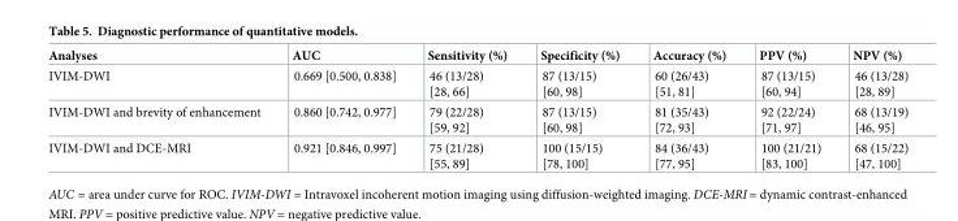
<table><thead><tr><td>Analyses</td><td>AUC</td><td>Sensitivity (%)</td><td>Specificity (%)</td><td>Accuracy (%)</td><td>PPV (%)</td><td>NPV (%)</td></tr></thead><tbody><tr><td>IVIM-DWI</td><td>0.669 [0.500, 0.838]</td><td>46 (13/28) [28, 66]</td><td>87 (13/15) [60, 98]</td><td>60 (26/43) [51, 81]</td><td>87 (13/15) [60, 94]</td><td>46 (13/28) [28, 89]</td></tr><tr><td>IVIM-DWI and brevity of enhancement</td><td>0.860 [0.742, 0.977]</td><td>79 (22/28) [59, 92]</td><td>87 (13/15) [60, 98]</td><td>81 (35/43) [72, 93]</td><td>92 (22/24) [71, 97]</td><td>68 (13/19) [46, 95]</td></tr><tr><td>IVIM-DWI and DCE-MRI</td><td>0.921 [0.846, 0.997]</td><td>75 (21/28) [55, 89]</td><td>100 (15/15) [78, 100]</td><td>84 (36/43) [77, 95]</td><td>100 (21/21) [83, 100]</td><td>68 (15/22) [47, 100]</td></tr></tbody></table>